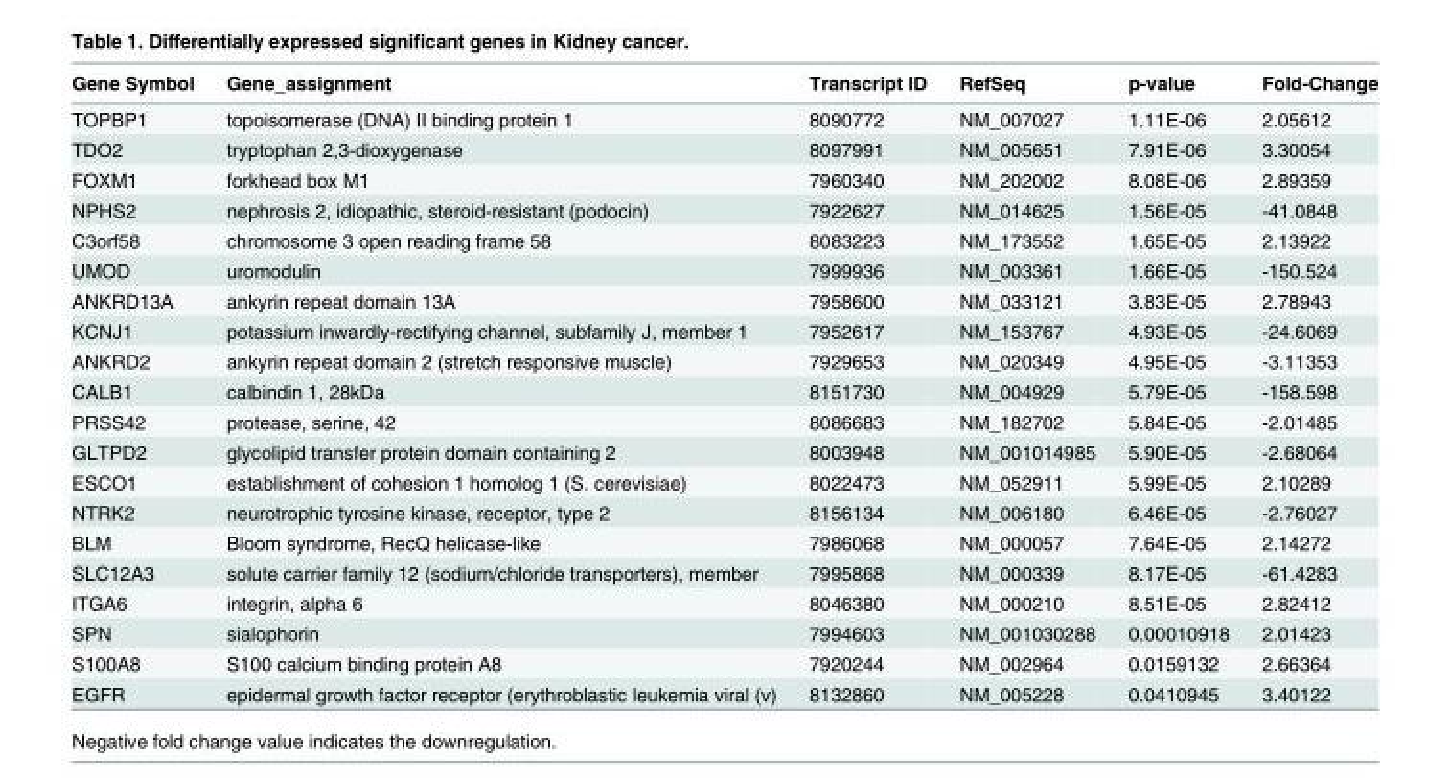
<table><thead><tr><td>Gene Symbol</td><td>Gene_assignment</td><td>Transcript ID</td><td>RefSeq</td><td>p-value</td><td>Fold-Change</td></tr></thead><tbody><tr><td>TOPBP1</td><td>topoisomerase (DNA) II binding protein 1</td><td>8090772</td><td>NM_007027</td><td>1.11E-06</td><td>2.05612</td></tr><tr><td>TDO2</td><td>tryptophan 2,3-dioxygenase</td><td>8097991</td><td>NM_005651</td><td>7.91E-06</td><td>3.30054</td></tr><tr><td>FOXM1</td><td>forkhead box M1</td><td>7960340</td><td>NM_202002</td><td>8.08E-06</td><td>2.89359</td></tr><tr><td>NPHS2</td><td>nephrosis 2, idiopathic, steroid-resistant (podocin)</td><td>7922627</td><td>NM_014625</td><td>1.56E-05</td><td>-41.0848</td></tr><tr><td>C3orf58</td><td>chromosome 3 open reading frame 58</td><td>8083223</td><td>NM_173552</td><td>1.65E-05</td><td>2.13922</td></tr><tr><td>UMOD</td><td>uromodulin</td><td>7999936</td><td>NM_003361</td><td>1.66E-05</td><td>-150.524</td></tr><tr><td>ANKRD13A</td><td>ankyrin repeat domain 13A</td><td>7958600</td><td>NM_033121</td><td>3.83E-05</td><td>2.78943</td></tr><tr><td>KCNJ1</td><td>potassium inwardly-rectifying channel, subfamily J, member 1</td><td>7952617</td><td>NM_153767</td><td>4.93E-05</td><td>-24.6069</td></tr><tr><td>ANKRD2</td><td>ankyrin repeat domain 2 (stretch responsive muscle)</td><td>7929653</td><td>NM_020349</td><td>4.95E-05</td><td>-3.11353</td></tr><tr><td>CALB1</td><td>calbindin 1, 28kDa</td><td>8151730</td><td>NM_004929</td><td>5.79E-05</td><td>-158.598</td></tr><tr><td>PRSS42</td><td>protease, serine, 42</td><td>8086683</td><td>NM_182702</td><td>5.84E-05</td><td>-2.01485</td></tr><tr><td>GLTPD2</td><td>glycolipid transfer protein domain containing 2</td><td>8003948</td><td>NM_001014985</td><td>5.90E-05</td><td>-2.68064</td></tr><tr><td>ESCO1</td><td>establishment of cohesion 1 homolog 1 (S. cerevisiae)</td><td>8022473</td><td>NM_052911</td><td>5.99E-05</td><td>2.10289</td></tr><tr><td>NTRK2</td><td>neurotrophic tyrosine kinase, receptor, type 2</td><td>8156134</td><td>NM_006180</td><td>6.46E-05</td><td>-2.76027</td></tr><tr><td>BLM</td><td>Bloom syndrome, RecQ helicase-like</td><td>7986068</td><td>NM_000057</td><td>7.64E-05</td><td>2.14272</td></tr><tr><td>SLC12A3</td><td>solute carrier family 12 (sodium/chloride transporters), member</td><td>7995868</td><td>NM_000339</td><td>8.17E-05</td><td>-61.4283</td></tr><tr><td>ITGA6</td><td>integrin, alpha 6</td><td>8046380</td><td>NM_000210</td><td>8.51E-05</td><td>2.82412</td></tr><tr><td>SPN</td><td>sialophorin</td><td>7994603</td><td>NM_001030288</td><td>0.00010918</td><td>2.01423</td></tr><tr><td>S100A8</td><td>S100 calcium binding protein A8</td><td>7920244</td><td>NM_002964</td><td>0.0159132</td><td>2.66364</td></tr><tr><td>EGFR</td><td>epidermal growth factor receptor (erythroblastic leukemia viral (v)</td><td>8132860</td><td>NM_005228</td><td>0.0410945</td><td>3.40122</td></tr></tbody></table>